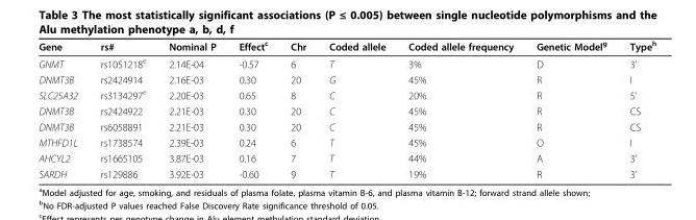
<table><thead><tr><td>Gene</td><td>rs#</td><td>Nominal P</td><td>Effect<sup>c</sup></td><td>Chr</td><td>Coded allele</td><td>Coded allele frequency</td><td>Genetic Model<sup>g</sup></td><td>Type<sup>h</sup></td></tr></thead><tbody><tr><td>GNMT</td><td>rs1051218<sup>e</sup></td><td>2.14E-04</td><td>-0.57</td><td>6</td><td>T</td><td>3%</td><td>D</td><td>3’</td></tr><tr><td>DNMT3B</td><td>rs2424914</td><td>2.16E-03</td><td>0.30</td><td>20</td><td>G</td><td>45%</td><td>R</td><td>I</td></tr><tr><td>SLC25A32</td><td>rs3134297<sup>e</sup></td><td>2.20E-03</td><td>0.65</td><td>8</td><td>C</td><td>20%</td><td>R</td><td>5’</td></tr><tr><td>DNMT3B</td><td>rs2424922</td><td>2.21E-03</td><td>0.30</td><td>20</td><td>C</td><td>45%</td><td>R</td><td>CS</td></tr><tr><td>DNMT3B</td><td>rs6058891</td><td>2.21E-03</td><td>0.30</td><td>20</td><td>C</td><td>45%</td><td>R</td><td>CS</td></tr><tr><td>MTHFD1L</td><td>rs1738574</td><td>2.39E-03</td><td>0.24</td><td>6</td><td>T</td><td>45%</td><td>O</td><td>I</td></tr><tr><td>AHCYL2</td><td>rs1665105</td><td>3.87E-03</td><td>0.16</td><td>7</td><td>T</td><td>44%</td><td>A</td><td>3’</td></tr><tr><td>SARDH</td><td>rs129886</td><td>3.92E-03</td><td>-0.60</td><td>9</td><td>T</td><td>19%</td><td>R</td><td>3’</td></tr></tbody></table>